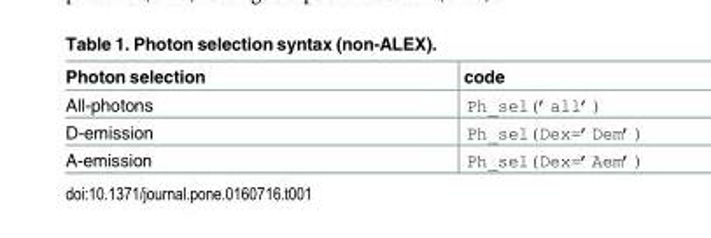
<table><thead><tr><td>Photon selection</td><td>code</td></tr></thead><tbody><tr><td>All-photons</td><td>Ph_sel(’all’)</td></tr><tr><td>D-emission</td><td>Ph_sel(Dex=’Dem’)</td></tr><tr><td>A-emission</td><td>Ph_sel(Dex=’Aem’)</td></tr></tbody></table>